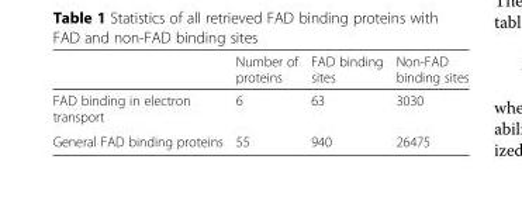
<table><thead><tr><td></td><td>Number of proteins</td><td>FAD binding sites</td><td>Non-FAD binding sites</td></tr></thead><tbody><tr><td>FAD binding in electron transport</td><td>6</td><td>63</td><td>3030</td></tr><tr><td>General FAD binding proteins</td><td>55</td><td>940</td><td>26475</td></tr></tbody></table>